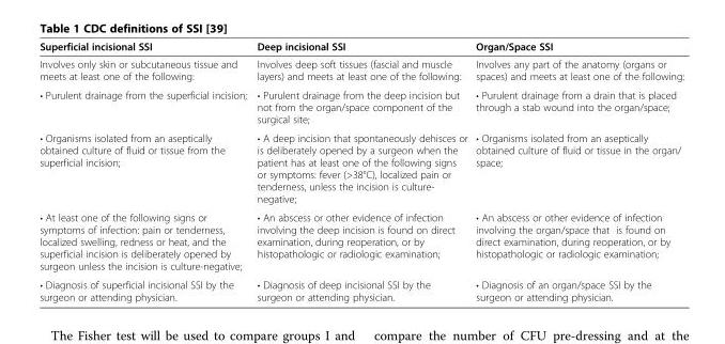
<table><thead><tr><td>Superficial incisional SSI</td><td>Deep incisional SSI</td><td>Organ/Space SSI</td></tr></thead><tbody><tr><td>Involves only skin or subcutaneous tissue and meets at least one of the following:</td><td>Involves deep soft tissues (fascial and muscle layers) and meets at least one of the following:</td><td>Involves any part of the anatomy (organs or spaces) and meets at least one of the following:</td></tr><tr><td>• Purulent drainage from the superficial incision;</td><td>• Purulent drainage from the deep incision but not from the organ/space component of the surgical site;</td><td>• Purulent drainage from a drain that is placed through a stab wound into the organ/space;</td></tr><tr><td>• Organisms isolated from an aseptically obtained culture of fluid or tissue from the superficial incision;</td><td>• A deep incision that spontaneously dehisces or is deliberately opened by a surgeon when the patient has at least one of the following signs or symptoms: fever (&gt;38°C), localized pain or tenderness, unless the incision is culture- negative;</td><td>• Organisms isolated from an aseptically obtained culture of fluid or tissue in the organ/ space;</td></tr><tr><td>• At least one of the following signs or symptoms of infection: pain or tenderness, localized swelling, redness or heat, and the superficial incision is deliberately opened by surgeon unless the incision is culture-negative;</td><td>• An abscess or other evidence of infection involving the deep incision is found on direct examination, during reoperation, or by histopathologic or radiologic examination;</td><td>• An abscess or other evidence of infection involving the organ/space that is found on direct examination, during reoperation, or by histopathologic or radiologic examination;</td></tr><tr><td>• Diagnosis of superficial incisional SSI by the surgeon or attending physician.</td><td>• Diagnosis of deep incisional SSI by the surgeon or attending physician.</td><td>• Diagnosis of an organ/space SSI by the surgeon or attending physician.</td></tr></tbody></table>